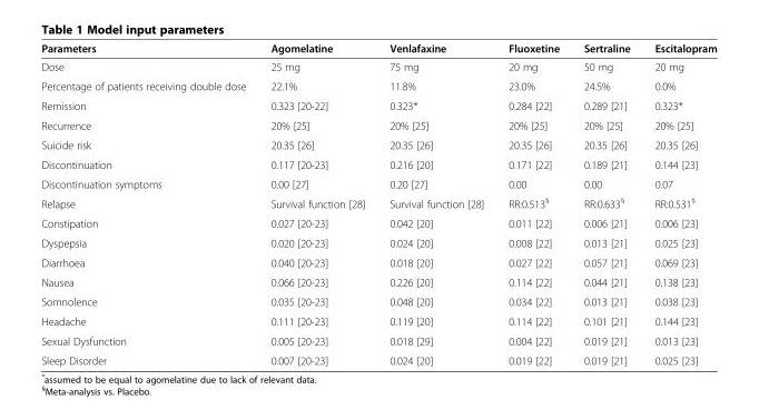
<table><thead><tr><td>Parameters</td><td>Agomelatine</td><td>Venlafaxine</td><td>Fluoxetine</td><td>Sertraline</td><td>Escitalopram</td></tr></thead><tbody><tr><td>Dose</td><td>25 mg</td><td>75 mg</td><td>20 mg</td><td>50 mg</td><td>20 mg</td></tr><tr><td>Percentage of patients receiving double dose</td><td>22.1%</td><td>11.8%</td><td>23.0%</td><td>24.5%</td><td>0.0%</td></tr><tr><td>Remission</td><td>0.323 [20-22]</td><td>0.323*</td><td>0.284 [22]</td><td>0.289 [21]</td><td>0.323*</td></tr><tr><td>Recurrence</td><td>20% [25]</td><td>20% [25]</td><td>20% [25]</td><td>20% [25]</td><td>20% [25]</td></tr><tr><td>Suicide risk</td><td>20.35 [26]</td><td>20.35 [26]</td><td>20.35 [26]</td><td>20.35 [26]</td><td>20.35 [26]</td></tr><tr><td>Discontinuation</td><td>0.117 [20-23]</td><td>0.216 [20]</td><td>0.171 [22]</td><td>0.189 [21]</td><td>0.144 [23]</td></tr><tr><td>Discontinuation symptoms</td><td>0.00 [27]</td><td>0.20 [27]</td><td>0.00</td><td>0.00</td><td>0.07</td></tr><tr><td>Relapse</td><td>Survival function [28]</td><td>Survival function [28]</td><td>RR:0.513<sup>§</sup></td><td>RR:0.633<sup>§</sup></td><td>RR:0.531<sup>§</sup></td></tr><tr><td>Constipation</td><td>0.027 [20-23]</td><td>0.042 [20]</td><td>0.011 [22]</td><td>0.006 [21]</td><td>0.006 [23]</td></tr><tr><td>Dyspepsia</td><td>0.020 [20-23]</td><td>0.024 [20]</td><td>0.008 [22]</td><td>0.013 [21]</td><td>0.025 [23]</td></tr><tr><td>Diarrhoea</td><td>0.040 [20-23]</td><td>0.018 [20]</td><td>0.027 [22]</td><td>0.057 [21]</td><td>0.069 [23]</td></tr><tr><td>Nausea</td><td>0.066 [20-23]</td><td>0.226 [20]</td><td>0.114 [22]</td><td>0.044 [21]</td><td>0.138 [23]</td></tr><tr><td>Somnolence</td><td>0.035 [20-23]</td><td>0.048 [20]</td><td>0.034 [22]</td><td>0.013 [21]</td><td>0.038 [23]</td></tr><tr><td>Headache</td><td>0.111 [20-23]</td><td>0.119 [20]</td><td>0.114 [22]</td><td>0.101 [21]</td><td>0.144 [23]</td></tr><tr><td>Sexual Dysfunction</td><td>0.005 [20-23]</td><td>0.018 [29]</td><td>0.004 [22]</td><td>0.019 [21]</td><td>0.013 [23]</td></tr><tr><td>Sleep Disorder</td><td>0.007 [20-23]</td><td>0.024 [20]</td><td>0.019 [22]</td><td>0.019 [21]</td><td>0.025 [23]</td></tr></tbody></table>